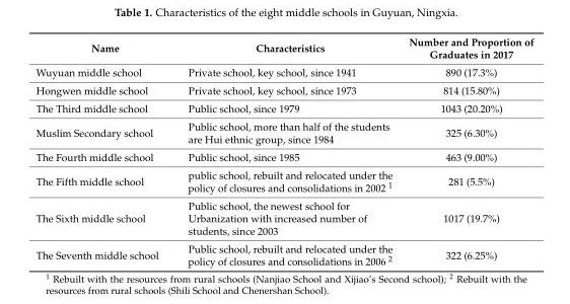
<table><thead><tr><td>Name</td><td>Characteristics</td><td>Number and Proportion of Graduates in 2017</td></tr></thead><tbody><tr><td>Wuyuan middle school</td><td>Private school, key school, since 1941</td><td>890 (17.3%)</td></tr><tr><td>Hongwen middle school</td><td>Private school, key school, since 1973</td><td>814 (15.80%)</td></tr><tr><td>The Third middle school</td><td>Public school, since 1979</td><td>1043 (20.20%)</td></tr><tr><td>Muslim Secondary school</td><td>Public school, more than half of the students are Hui ethnic group, since 1984</td><td>325 (6.30%)</td></tr><tr><td>The Fourth middle school</td><td>Public school, since 1985</td><td>463 (9.00%)</td></tr><tr><td>The Fifth middle school</td><td>public school, rebuilt and relocated under the policy of closures and consolidations in 2002 <sup>1</sup></td><td>281 (5.5%)</td></tr><tr><td>The Sixth middle school</td><td>Public school, the newest school for Urbanization with increased number of students, since 2003</td><td>1017 (19.7%)</td></tr><tr><td>The Seventh middle school</td><td>Public school, rebuilt and relocated under the policy of closures and consolidations in 2006 <sup>2</sup></td><td>322 (6.25%)</td></tr></tbody></table>